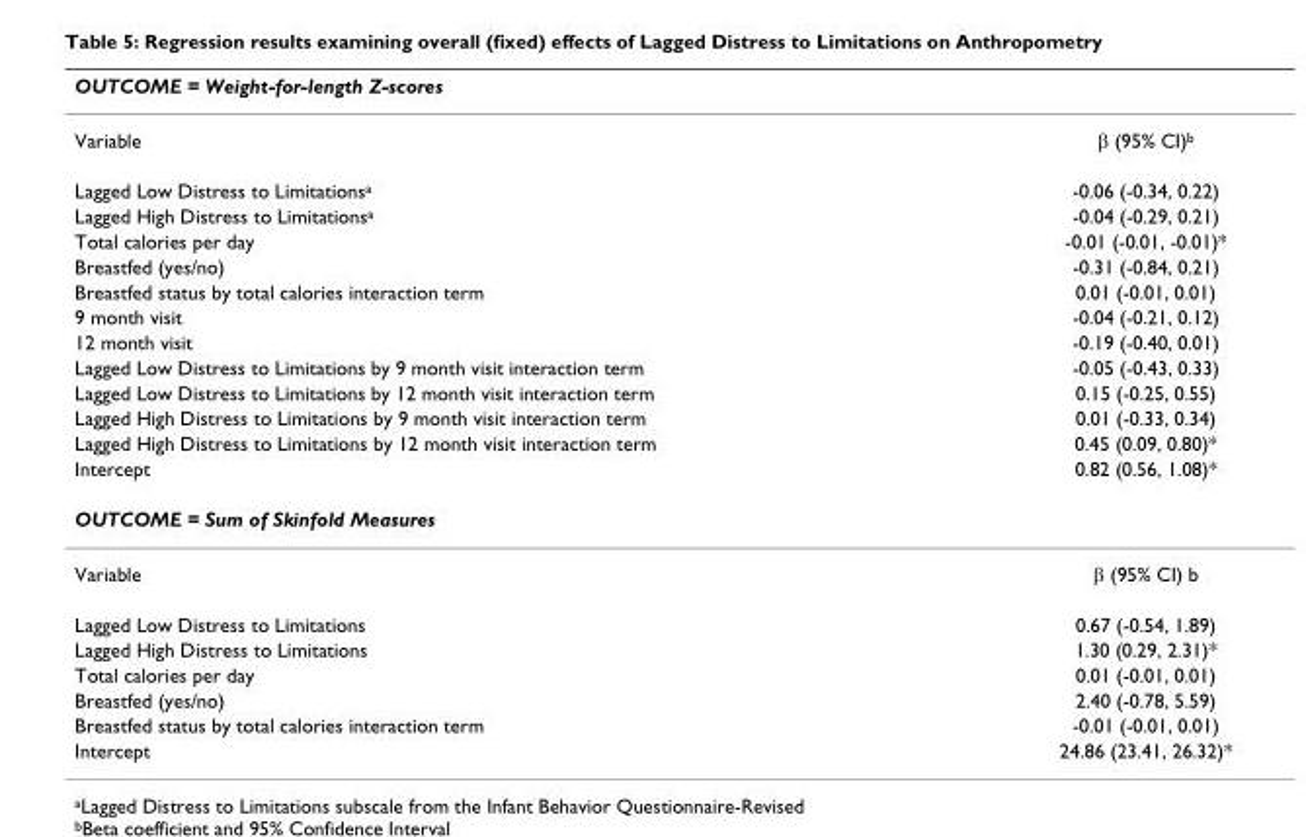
<table><thead><tr><td colspan="2">OUTCOME = Weight-for-length Z-scores</td></tr><tr><td>Variable</td><td>β (95% CI)<sup>b</sup></td></tr></thead><tbody><tr><td>Lagged Low Distress to Limitations<sup>a</sup></td><td>-0.06 (-0.34, 0.22)</td></tr><tr><td>Lagged High Distress to Limitations<sup>a</sup></td><td>-0.04 (-0.29, 0.21)</td></tr><tr><td>Total calories per day</td><td>-0.01 (-0.01, -0.01)*</td></tr><tr><td>Breastfed (yes/no)</td><td>-0.31 (-0.84, 0.21)</td></tr><tr><td>Breastfed status by total calories interaction term</td><td>0.01 (-0.01, 0.01)</td></tr><tr><td>9 month visit</td><td>-0.04 (-0.21, 0.12)</td></tr><tr><td>12 month visit</td><td>-0.19 (-0.40, 0.01)</td></tr><tr><td>Lagged Low Distress to Limitations by 9 month visit interaction term</td><td>-0.05 (-0.43, 0.33)</td></tr><tr><td>Lagged Low Distress to Limitations by 12 month visit interaction term</td><td>0.15 (-0.25, 0.55)</td></tr><tr><td>Lagged High Distress to Limitations by 9 month visit interaction term</td><td>0.01 (-0.33, 0.34)</td></tr><tr><td>Lagged High Distress to Limitations by 12 month visit interaction term</td><td>0.45 (0.09, 0.80)*</td></tr><tr><td>Intercept</td><td>0.82 (0.56, 1.08)*</td></tr><tr><td colspan="2">OUTCOME = Sum of Skinfold Measures</td></tr><tr><td>Variable</td><td>β (95% CI) b</td></tr><tr><td>Lagged Low Distress to Limitations</td><td>0.67 (-0.54, 1.89)</td></tr><tr><td>Lagged High Distress to Limitations</td><td>1.30 (0.29, 2.31)*</td></tr><tr><td>Total calories per day</td><td>0.01 (-0.01, 0.01)</td></tr><tr><td>Breastfed (yes/no)</td><td>2.40 (-0.78, 5.59)</td></tr><tr><td>Breastfed status by total calories interaction term</td><td>-0.01 (-0.01, 0.01)</td></tr><tr><td>Intercept</td><td>24.86 (23.41, 26.32)*</td></tr></tbody></table>